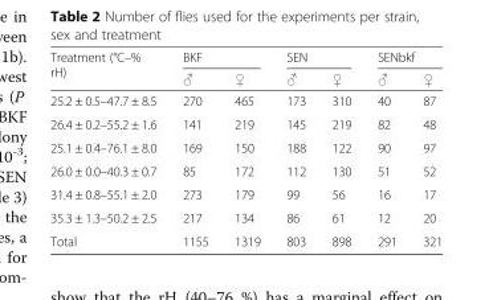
<table><thead><tr><td rowspan="2">Treatment (°C–% rH)</td><td colspan="2">BKF</td><td colspan="2">SEN</td><td colspan="2">SENbkf</td></tr><tr><td>♂</td><td>♀</td><td>♂</td><td>♀</td><td>♂</td><td>♀</td></tr></thead><tbody><tr><td>25.2 ± 0.5–47.7 ± 8.5</td><td>270</td><td>465</td><td>173</td><td>310</td><td>40</td><td>87</td></tr><tr><td>26.4 ± 0.2–55.2 ± 1.6</td><td>141</td><td>219</td><td>145</td><td>219</td><td>82</td><td>48</td></tr><tr><td>25.1 ± 0.4–76.1 ± 8.0</td><td>169</td><td>150</td><td>188</td><td>122</td><td>90</td><td>97</td></tr><tr><td>26.0 ± 0.0–40.3 ± 0.7</td><td>85</td><td>172</td><td>112</td><td>130</td><td>51</td><td>52</td></tr><tr><td>31.4 ± 0.8–55.1 ± 2.0</td><td>273</td><td>179</td><td>99</td><td>56</td><td>16</td><td>17</td></tr><tr><td>35.3 ± 1.3–50.2 ± 2.5</td><td>217</td><td>134</td><td>86</td><td>61</td><td>12</td><td>20</td></tr><tr><td>Total</td><td>1155</td><td>1319</td><td>803</td><td>898</td><td>291</td><td>321</td></tr></tbody></table>